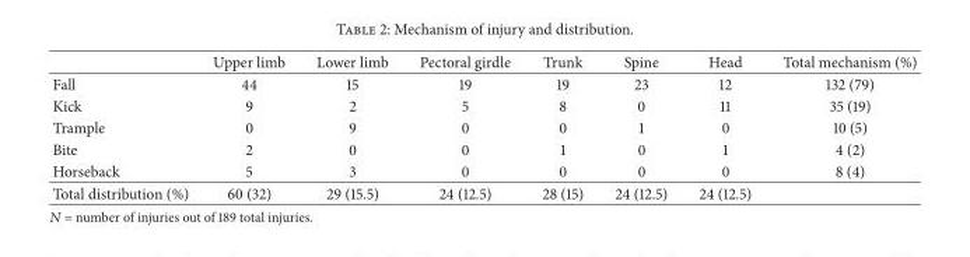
<table><thead><tr><td></td><td>Upper limb</td><td>Lower limb</td><td>Pectoral girdle</td><td>Trunk</td><td>Spine</td><td>Head</td><td>Total mechanism (%)</td></tr></thead><tbody><tr><td>Fall</td><td>44</td><td>15</td><td>19</td><td>19</td><td>23</td><td>12</td><td>132 (79)</td></tr><tr><td>Kick</td><td>9</td><td>2</td><td>5</td><td>8</td><td>0</td><td>11</td><td>35 (19)</td></tr><tr><td>Trample</td><td>0</td><td>9</td><td>0</td><td>0</td><td>1</td><td>0</td><td>10 (5)</td></tr><tr><td>Bite</td><td>2</td><td>0</td><td>0</td><td>1</td><td>0</td><td>1</td><td>4 (2)</td></tr><tr><td>Horseback</td><td>5</td><td>3</td><td>0</td><td>0</td><td>0</td><td>0</td><td>8 (4)</td></tr><tr><td>Total distribution (%)</td><td>60 (32)</td><td>29 (15.5)</td><td>24 (12.5)</td><td>28 (15)</td><td>24 (12.5)</td><td>24 (12.5)</td><td></td></tr></tbody></table>